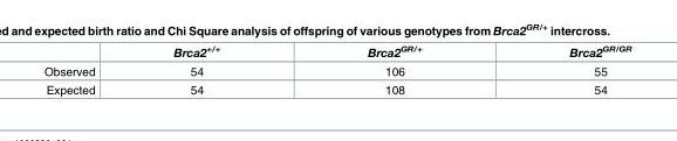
<table><thead><tr><td></td><td>Brca2<sup>+/+</sup></td><td>Brca2<sup>GR/+</sup></td><td>Brca2<sup>GR/GR</sup></td></tr></thead><tbody><tr><td>Observed</td><td>54</td><td>106</td><td>55</td></tr><tr><td>Expected</td><td>54</td><td>108</td><td>54</td></tr></tbody></table>